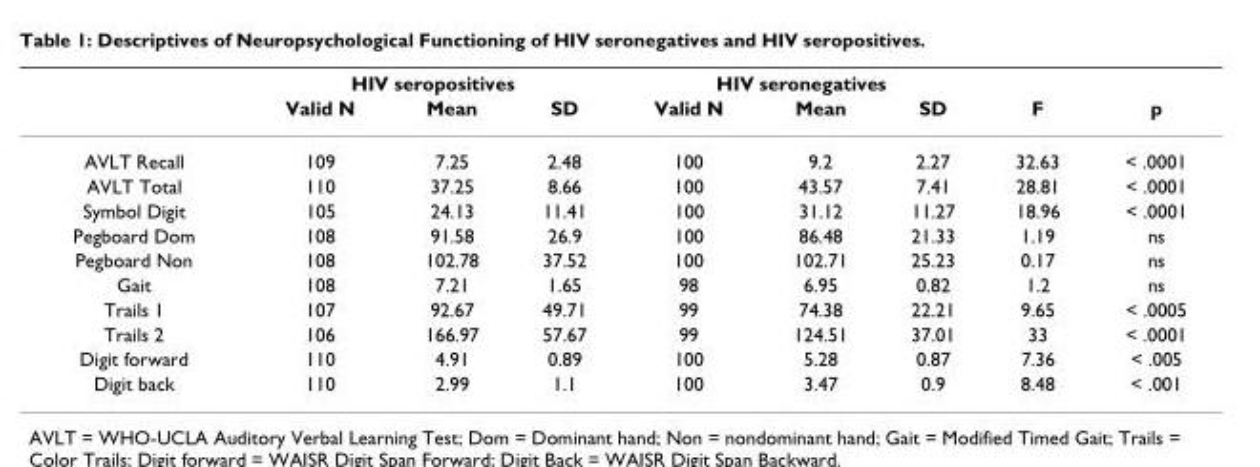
<table><thead><tr><td rowspan="2"></td><td colspan="3">HIV seropositives</td><td colspan="3">HIV seronegatives</td><td rowspan="2">F</td><td rowspan="2">p</td></tr><tr><td>Valid N</td><td>Mean</td><td>SD</td><td>Valid N</td><td>Mean</td><td>SD</td></tr></thead><tbody><tr><td>AVLT Recall</td><td>109</td><td>7.25</td><td>2.48</td><td>100</td><td>9.2</td><td>2.27</td><td>32.63</td><td>&lt; .0001</td></tr><tr><td>AVLT Total</td><td>110</td><td>37.25</td><td>8.66</td><td>100</td><td>43.57</td><td>7.41</td><td>28.81</td><td>&lt; .0001</td></tr><tr><td>Symbol Digit</td><td>105</td><td>24.13</td><td>11.41</td><td>100</td><td>31.12</td><td>11.27</td><td>18.96</td><td>&lt; .0001</td></tr><tr><td>Pegboard Dom</td><td>108</td><td>91.58</td><td>26.9</td><td>100</td><td>86.48</td><td>21.33</td><td>1.19</td><td>ns</td></tr><tr><td>Pegboard Non</td><td>108</td><td>102.78</td><td>37.52</td><td>100</td><td>102.71</td><td>25.23</td><td>0.17</td><td>ns</td></tr><tr><td>Gait</td><td>108</td><td>7.21</td><td>1.65</td><td>98</td><td>6.95</td><td>0.82</td><td>1.2</td><td>ns</td></tr><tr><td>Trails 1</td><td>107</td><td>92.67</td><td>49.71</td><td>99</td><td>74.38</td><td>22.21</td><td>9.65</td><td>&lt; .0005</td></tr><tr><td>Trails 2</td><td>106</td><td>166.97</td><td>57.67</td><td>99</td><td>124.51</td><td>37.01</td><td>33</td><td>&lt; .0001</td></tr><tr><td>Digit forward</td><td>110</td><td>4.91</td><td>0.89</td><td>100</td><td>5.28</td><td>0.87</td><td>7.36</td><td>&lt; .005</td></tr><tr><td>Digit back</td><td>110</td><td>2.99</td><td>1.1</td><td>100</td><td>3.47</td><td>0.9</td><td>8.48</td><td>&lt; .001</td></tr></tbody></table>